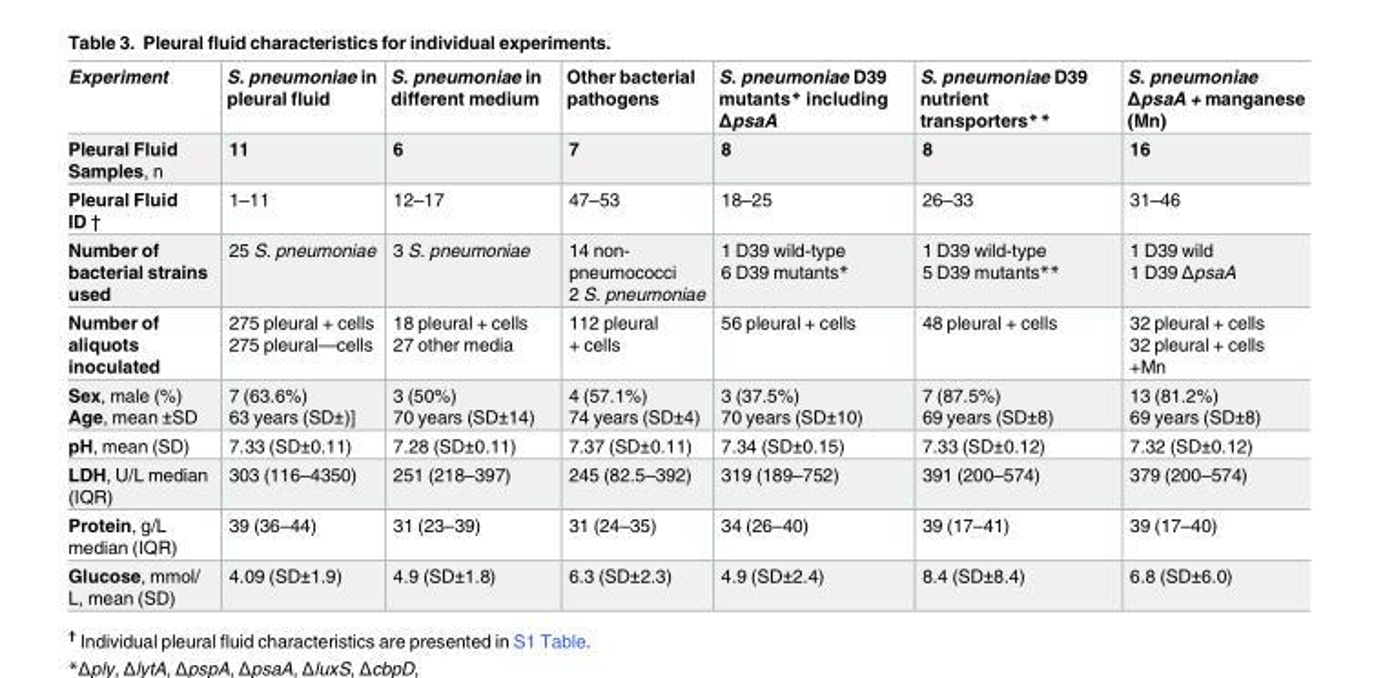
<table><thead><tr><td>Experiment</td><td>S. pneumoniae in pleural fluid</td><td>S. pneumoniae in different medium</td><td>Other bacterial pathogens</td><td>S. pneumoniae D39 mutants* including ΔpsaA</td><td>S. pneumoniae D39 nutrient transporters**</td><td>S. pneumoniae ΔpsaA + manganese (Mn)</td></tr></thead><tbody><tr><td>Pleural Fluid Samples, n</td><td>11</td><td>6</td><td>7</td><td>8</td><td>8</td><td>16</td></tr><tr><td>Pleural Fluid ID †</td><td>1–11</td><td>12–17</td><td>47–53</td><td>18–25</td><td>26–33</td><td>31–46</td></tr><tr><td>Number of bacterial strains used</td><td>25 S. pneumoniae</td><td>3 S. pneumoniae</td><td>14 non- pneumococci 2 S. pneumoniae</td><td>1 D39 wild-type 6 D39 mutants*</td><td>1 D39 wild-type 5 D39 mutants**</td><td>1 D39 wild 1 D39 ΔpsaA</td></tr><tr><td>Number of aliquots inoculated</td><td>275 pleural + cells 275 pleural—cells</td><td>18 pleural + cells 27 other media</td><td>112 pleural + cells</td><td>56 pleural + cells</td><td>48 pleural + cells</td><td>32 pleural + cells 32 pleural + cells +Mn</td></tr><tr><td>Sex, male (%) Age, mean ±SD</td><td>7 (63.6%) 63 years (SD±)]</td><td>3 (50%) 70 years (SD±14)</td><td>4 (57.1%) 74 years (SD±4)</td><td>3 (37.5%) 70 years (SD±10)</td><td>7 (87.5%) 69 years (SD±8)</td><td>13 (81.2%) 69 years (SD±8)</td></tr><tr><td>pH, mean (SD)</td><td>7.33 (SD±0.11)</td><td>7.28 (SD±0.11)</td><td>7.37 (SD±0.11)</td><td>7.34 (SD±0.15)</td><td>7.33 (SD±0.12)</td><td>7.32 (SD±0.12)</td></tr><tr><td>LDH, U/L median (IQR)</td><td>303 (116–4350)</td><td>251 (218–397)</td><td>245 (82.5–392)</td><td>319 (189–752)</td><td>391 (200–574)</td><td>379 (200–574)</td></tr><tr><td>Protein, g/L median (IQR)</td><td>39 (36–44)</td><td>31 (23–39)</td><td>31 (24–35)</td><td>34 (26–40)</td><td>39 (17–41)</td><td>39 (17–40)</td></tr><tr><td>Glucose, mmol/ L, mean (SD)</td><td>4.09 (SD±1.9)</td><td>4.9 (SD±1.8)</td><td>6.3 (SD±2.3)</td><td>4.9 (SD±2.4)</td><td>8.4 (SD±8.4)</td><td>6.8 (SD±6.0)</td></tr></tbody></table>